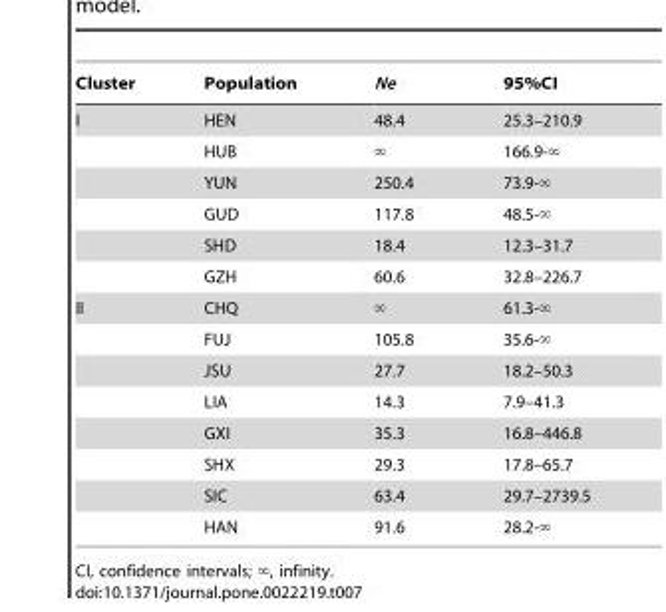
<table><thead><tr><td>Cluster</td><td>Population</td><td>Ne</td><td>95%CI</td></tr></thead><tbody><tr><td rowspan="6">I</td><td>HEN</td><td>48.4</td><td>25.3–210.9</td></tr><tr><td>HUB</td><td>‘</td><td>166.9-‘</td></tr><tr><td>YUN</td><td>250.4</td><td>73.9-‘</td></tr><tr><td>GUD</td><td>117.8</td><td>48.5-‘</td></tr><tr><td>SHD</td><td>18.4</td><td>12.3–31.7</td></tr><tr><td>GZH</td><td>60.6</td><td>32.8–226.7</td></tr><tr><td rowspan="8">II</td><td>CHQ</td><td>‘</td><td>61.3-‘</td></tr><tr><td>FUJ</td><td>105.8</td><td>35.6-‘</td></tr><tr><td>JSU</td><td>27.7</td><td>18.2–50.3</td></tr><tr><td>LIA</td><td>14.3</td><td>7.9–41.3</td></tr><tr><td>GXI</td><td>35.3</td><td>16.8–446.8</td></tr><tr><td>SHX</td><td>29.3</td><td>17.8–65.7</td></tr><tr><td>SIC</td><td>63.4</td><td>29.7–2739.5</td></tr><tr><td>HAN</td><td>91.6</td><td>28.2-‘</td></tr></tbody></table>